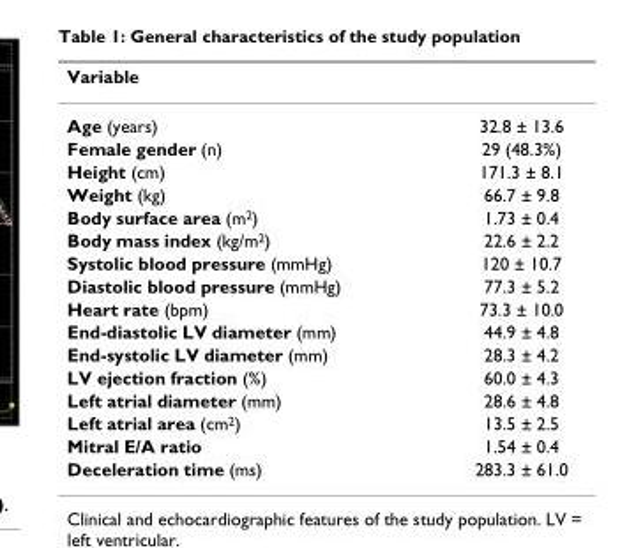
<table><thead><tr><td>Variable</td><td></td></tr></thead><tbody><tr><td>Age (years)</td><td>32.8 ± 13.6</td></tr><tr><td>Female gender (n)</td><td>29 (48.3%)</td></tr><tr><td>Height (cm)</td><td>171.3 ± 8.1</td></tr><tr><td>Weight (kg)</td><td>66.7 ± 9.8</td></tr><tr><td>Body surface area (m<sup>2</sup>)</td><td>1.73 ± 0.4</td></tr><tr><td>Body mass index (kg/m<sup>2</sup>)</td><td>22.6 ± 2.2</td></tr><tr><td>Systolic blood pressure (mmHg)</td><td>120 ± 10.7</td></tr><tr><td>Diastolic blood pressure (mmHg)</td><td>77.3 ± 5.2</td></tr><tr><td>Heart rate (bpm)</td><td>73.3 ± 10.0</td></tr><tr><td>End-diastolic LV diameter (mm)</td><td>44.9 ± 4.8</td></tr><tr><td>End-systolic LV diameter (mm)</td><td>28.3 ± 4.2</td></tr><tr><td>LV ejection fraction (%)</td><td>60.0 ± 4.3</td></tr><tr><td>Left atrial diameter (mm)</td><td>28.6 ± 4.8</td></tr><tr><td>Left atrial area (cm<sup>2</sup>)</td><td>13.5 ± 2.5</td></tr><tr><td>Mitral E/A ratio</td><td>1.54 ± 0.4</td></tr><tr><td>Deceleration time (ms)</td><td>283.3 ± 61.0</td></tr></tbody></table>